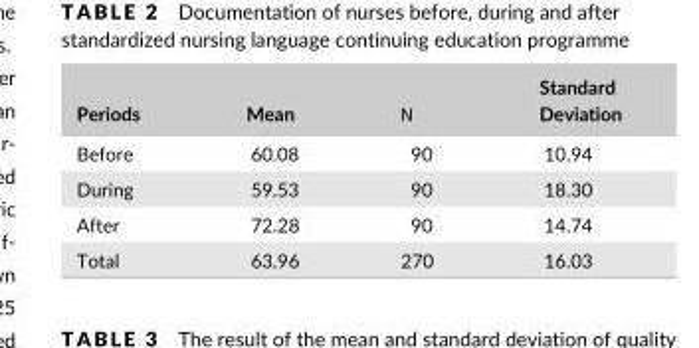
<table><thead><tr><td>Periods</td><td>Mean</td><td>N</td><td>Standard Deviation</td></tr></thead><tbody><tr><td>Before</td><td>60.08</td><td>90</td><td>10.94</td></tr><tr><td>During</td><td>59.53</td><td>90</td><td>18.30</td></tr><tr><td>After</td><td>72.28</td><td>90</td><td>14.74</td></tr><tr><td>Total</td><td>63.96</td><td>270</td><td>16.03</td></tr></tbody></table>